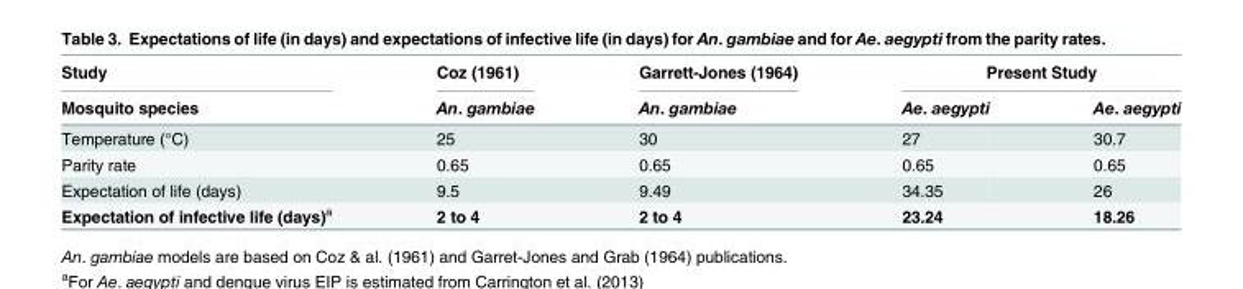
<table><thead><tr><td rowspan="2">Study Mosquito species</td><td rowspan="2">Coz (1961) An. gambiae</td><td rowspan="2">Garrett-Jones (1964) An. gambiae</td><td colspan="2">Present Study</td></tr><tr><td>Ae. aegypti</td><td>Ae. aegypti</td></tr></thead><tbody><tr><td>Temperature (°C)</td><td>25</td><td>30</td><td>27</td><td>30.7</td></tr><tr><td>Parity rate</td><td>0.65</td><td>0.65</td><td>0.65</td><td>0.65</td></tr><tr><td>Expectation of life (days)</td><td>9.5</td><td>9.49</td><td>34.35</td><td>26</td></tr><tr><td>Expectation of infective life (days)<sup>a</sup></td><td>2 to 4</td><td>2 to 4</td><td>23.24</td><td>18.26</td></tr></tbody></table>